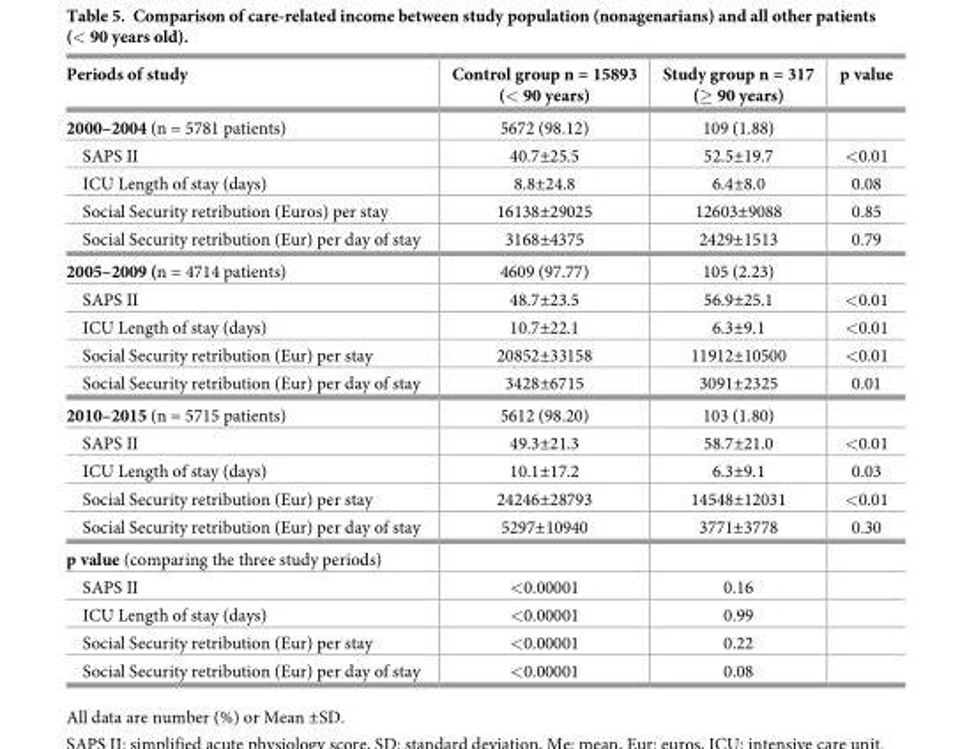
<table><thead><tr><td>Periods of study</td><td>Control group n = 15893 (&lt; 90 years)</td><td>Study group n = 317 (≥ 90 years)</td><td>p value</td></tr></thead><tbody><tr><td>2000–2004 (n = 5781 patients)</td><td>5672 (98.12)</td><td>109 (1.88)</td><td></td></tr><tr><td>SAPS II</td><td>40.7±25.5</td><td>52.5±19.7</td><td>&lt;0.01</td></tr><tr><td>ICU Length of stay (days)</td><td>8.8±24.8</td><td>6.4±8.0</td><td>0.08</td></tr><tr><td>Social Security retribution (Euros) per stay</td><td>16138±29025</td><td>12603±9088</td><td>0.85</td></tr><tr><td>Social Security retribution (Eur) per day of stay</td><td>3168±4375</td><td>2429±1513</td><td>0.79</td></tr><tr><td>2005–2009 (n = 4714 patients)</td><td>4609 (97.77)</td><td>105 (2.23)</td><td></td></tr><tr><td>SAPS II</td><td>48.7±23.5</td><td>56.9±25.1</td><td>&lt;0.01</td></tr><tr><td>ICU Length of stay (days)</td><td>10.7±22.1</td><td>6.3±9.1</td><td>&lt;0.01</td></tr><tr><td>Social Security retribution (Eur) per stay</td><td>20852±33158</td><td>11912±10500</td><td>&lt;0.01</td></tr><tr><td>Social Security retribution (Eur) per day of stay</td><td>3428±6715</td><td>3091±2325</td><td>0.01</td></tr><tr><td>2010–2015 (n = 5715 patients)</td><td>5612 (98.20)</td><td>103 (1.80)</td><td></td></tr><tr><td>SAPS II</td><td>49.3±21.3</td><td>58.7±21.0</td><td>&lt;0.01</td></tr><tr><td>ICU Length of stay (days)</td><td>10.1±17.2</td><td>6.3±9.1</td><td>0.03</td></tr><tr><td>Social Security retribution (Eur) per stay</td><td>24246±28793</td><td>14548±12031</td><td>&lt;0.01</td></tr><tr><td>Social Security retribution (Eur) per day of stay</td><td>5297±10940</td><td>3771±3778</td><td>0.30</td></tr><tr><td colspan="4">p value (comparing the three study periods)</td></tr><tr><td>SAPS II</td><td>&lt;0.00001</td><td>0.16</td><td></td></tr><tr><td>ICU Length of stay (days)</td><td>&lt;0.00001</td><td>0.99</td><td></td></tr><tr><td>Social Security retribution (Eur) per stay</td><td>&lt;0.00001</td><td>0.22</td><td></td></tr><tr><td>Social Security retribution (Eur) per day of stay</td><td>&lt;0.00001</td><td>0.08</td><td></td></tr></tbody></table>